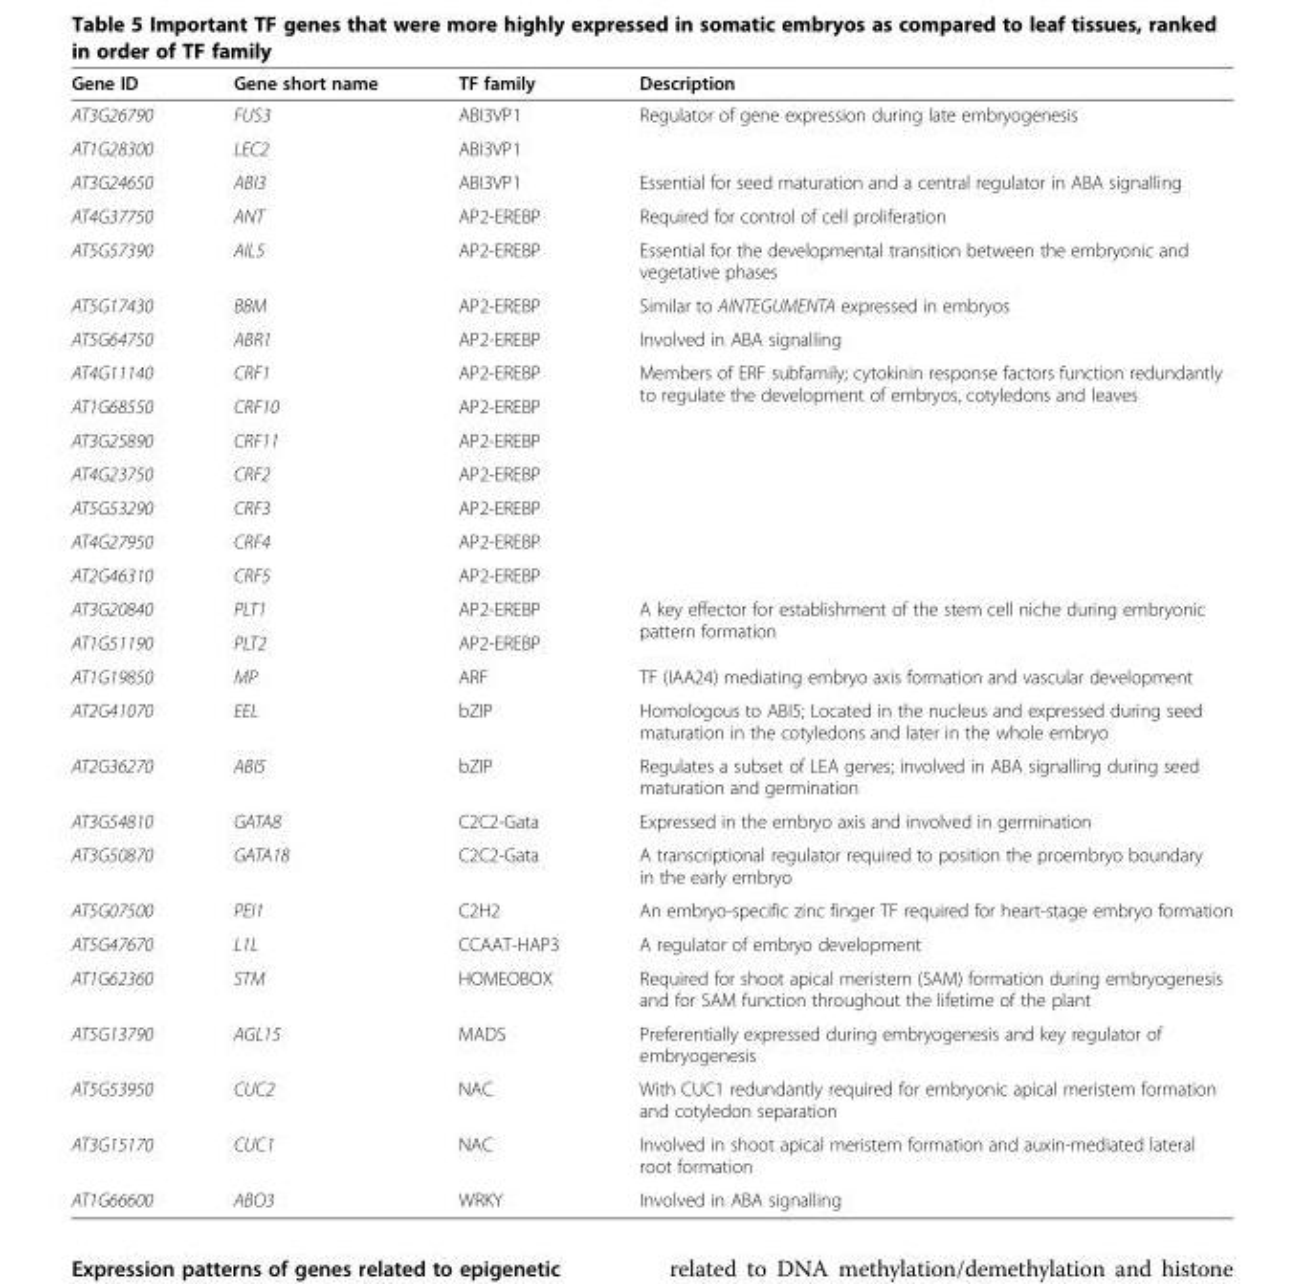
<table><thead><tr><td>Gene ID</td><td>Gene short name</td><td>TF family</td><td>Description</td></tr></thead><tbody><tr><td>AT3G26790</td><td>FUS3</td><td>ABI3VP1</td><td rowspan="2">Regulator of gene expression during late embryogenesis</td></tr><tr><td>AT1G28300</td><td>LEC2</td><td>ABI3VP1</td></tr><tr><td>AT3G24650</td><td>ABI3</td><td>ABI3VP1</td><td>Essential for seed maturation and a central regulator in ABA signalling</td></tr><tr><td>AT4G37750</td><td>ANT</td><td>AP2-EREBP</td><td>Required for control of cell proliferation</td></tr><tr><td>AT5G57390</td><td>AIL5</td><td>AP2-EREBP</td><td>Essential for the developmental transition between the embryonic and vegetative phases</td></tr><tr><td>AT5G17430</td><td>BBM</td><td>AP2-EREBP</td><td>Similar to AINTEGUMENTA expressed in embryos</td></tr><tr><td>AT5G64750</td><td>ABR1</td><td>AP2-EREBP</td><td>Involved in ABA signalling</td></tr><tr><td>AT4G11140</td><td>CRF1</td><td>AP2-EREBP</td><td rowspan="7">Members of ERF subfamily; cytokinin response factors function redundantly to regulate the development of embryos, cotyledons and leaves</td></tr><tr><td>AT1G68550</td><td>CRF10</td><td>AP2-EREBP</td></tr><tr><td>AT3G25890</td><td>CRF11</td><td>AP2-EREBP</td></tr><tr><td>AT4G23750</td><td>CRF2</td><td>AP2-EREBP</td></tr><tr><td>AT5G53290</td><td>CRF3</td><td>AP2-EREBP</td></tr><tr><td>AT4G27950</td><td>CRF4</td><td>AP2-EREBP</td></tr><tr><td>AT2G46310</td><td>CRF5</td><td>AP2-EREBP</td></tr><tr><td>AT3G20840</td><td>PLT1</td><td>AP2-EREBP</td><td rowspan="2">A key effector for establishment of the stem cell niche during embryonic pattern formation</td></tr><tr><td>AT1G51190</td><td>PLT2</td><td>AP2-EREBP</td></tr><tr><td>AT1G19850</td><td>MP</td><td>ARF</td><td>TF (IAA24) mediating embryo axis formation and vascular development</td></tr><tr><td>AT2G41070</td><td>EEL</td><td>bZIP</td><td>Homologous to ABI5; Located in the nucleus and expressed during seed maturation in the cotyledons and later in the whole embryo</td></tr><tr><td>AT2G36270</td><td>ABI5</td><td>bZIP</td><td>Regulates a subset of LEA genes; involved in ABA signalling during seed maturation and germination</td></tr><tr><td>AT3G54810</td><td>GATA8</td><td>C2C2-Gata</td><td>Expressed in the embryo axis and involved in germination</td></tr><tr><td>AT3G50870</td><td>GATA18</td><td>C2C2-Gata</td><td>A transcriptional regulator required to position the proembryo boundary in the early embryo</td></tr><tr><td>AT5G07500</td><td>PEI1</td><td>C2H2</td><td>An embryo-specific zinc finger TF required for heart-stage embryo formation</td></tr><tr><td>AT5G47670</td><td>L1L</td><td>CCAAT-HAP3</td><td>A regulator of embryo development</td></tr><tr><td>AT1G62360</td><td>STM</td><td>HOMEOBOX</td><td>Required for shoot apical meristem (SAM) formation during embryogenesis and for SAM function throughout the lifetime of the plant</td></tr><tr><td>AT5G13790</td><td>AGL15</td><td>MADS</td><td>Preferentially expressed during embryogenesis and key regulator of embryogenesis</td></tr><tr><td>AT5G53950</td><td>CUC2</td><td>NAC</td><td>With CUC1 redundantly required for embryonic apical meristem formation and cotyledon separation</td></tr><tr><td>AT3G15170</td><td>CUC1</td><td>NAC</td><td>Involved in shoot apical meristem formation and auxin-mediated lateral root formation</td></tr><tr><td>AT1G66600</td><td>ABO3</td><td>WRKY</td><td>Involved in ABA signalling</td></tr></tbody></table>